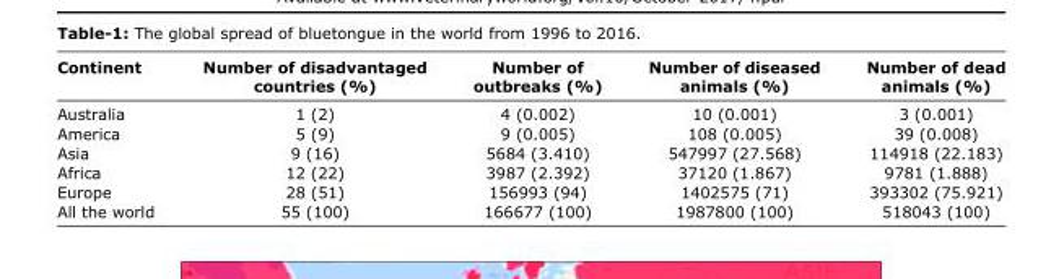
<table><thead><tr><td>Continent</td><td>Number of disadvantaged countries (%)</td><td>Number of outbreaks (%)</td><td>Number of diseased animals (%)</td><td>Number of dead animals (%)</td></tr></thead><tbody><tr><td>Australia</td><td>1 (2)</td><td>4 (0.002)</td><td>10 (0.001)</td><td>3 (0.001)</td></tr><tr><td>America</td><td>5 (9)</td><td>9 (0.005)</td><td>108 (0.005)</td><td>39 (0.008)</td></tr><tr><td>Asia</td><td>9 (16)</td><td>5684 (3.410)</td><td>547997 (27.568)</td><td>114918 (22.183)</td></tr><tr><td>Africa</td><td>12 (22)</td><td>3987 (2.392)</td><td>37120 (1.867)</td><td>9781 (1.888)</td></tr><tr><td>Europe</td><td>28 (51)</td><td>156993 (94)</td><td>1402575 (71)</td><td>393302 (75.921)</td></tr><tr><td>All the world</td><td>55 (100)</td><td>166677 (100)</td><td>1987800 (100)</td><td>518043 (100)</td></tr></tbody></table>